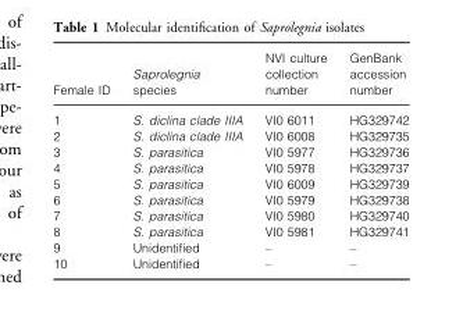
<table><thead><tr><td>Female ID</td><td>Saprolegnia species</td><td>NVI culture collection number</td><td>GenBank accession number</td></tr></thead><tbody><tr><td>1</td><td>S. diclina clade IIIA</td><td>VI0 6011</td><td>HG329742</td></tr><tr><td>2</td><td>S. diclina clade IIIA</td><td>VI0 6008</td><td>HG329735</td></tr><tr><td>3</td><td>S. parasitica</td><td>VI0 5977</td><td>HG329736</td></tr><tr><td>4</td><td>S. parasitica</td><td>VI0 5978</td><td>HG329737</td></tr><tr><td>5</td><td>S. parasitica</td><td>VI0 6009</td><td>HG329739</td></tr><tr><td>6</td><td>S. parasitica</td><td>VI0 5979</td><td>HG329738</td></tr><tr><td>7</td><td>S. parasitica</td><td>VI0 5980</td><td>HG329740</td></tr><tr><td>8</td><td>S. parasitica</td><td>VI0 5981</td><td>HG329741</td></tr><tr><td>9</td><td>Unidentified</td><td>–</td><td>–</td></tr><tr><td>10</td><td>Unidentified</td><td>–</td><td>–</td></tr></tbody></table>